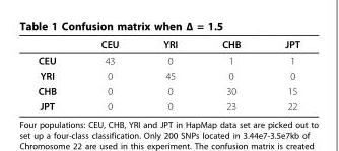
<table><thead><tr><td></td><td>CEU</td><td>YRI</td><td>CHB</td><td>JPT</td></tr></thead><tbody><tr><td>CEU</td><td>43</td><td>0</td><td>1</td><td>1</td></tr><tr><td>YRI</td><td>0</td><td>45</td><td>0</td><td>0</td></tr><tr><td>CHB</td><td>0</td><td>0</td><td>30</td><td>15</td></tr><tr><td>JPT</td><td>0</td><td>0</td><td>23</td><td>22</td></tr></tbody></table>